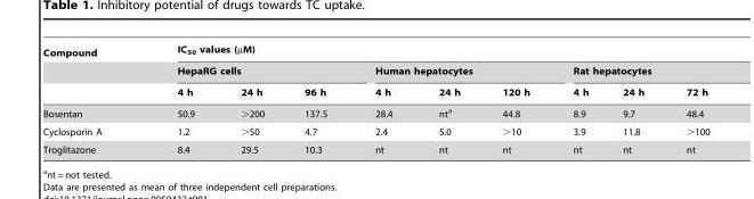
<table><thead><tr><td rowspan="3">Compound</td><td colspan="9">IC<sub>50</sub> values (µM)</td></tr><tr><td colspan="3">HepaRG cells</td><td colspan="3">Human hepatocytes</td><td colspan="3">Rat hepatocytes</td></tr><tr><td>4 h</td><td>24 h</td><td>96 h</td><td>4 h</td><td>24 h</td><td>120 h</td><td>4 h</td><td>24 h</td><td>72 h</td></tr></thead><tbody><tr><td>Bosentan</td><td>50.9</td><td>&gt;200</td><td>137.5</td><td>28.4</td><td>nt<sup>a</sup></td><td>44.8</td><td>8.9</td><td>9.7</td><td>48.4</td></tr><tr><td>Cyclosporin A</td><td>1.2</td><td>&gt;50</td><td>4.7</td><td>2.4</td><td>5.0</td><td>&gt;10</td><td>3.9</td><td>11.8</td><td>&gt;100</td></tr><tr><td>Troglitazone</td><td>8.4</td><td>29.5</td><td>10.3</td><td>nt</td><td>nt</td><td>nt</td><td>nt</td><td>nt</td><td>nt</td></tr></tbody></table>